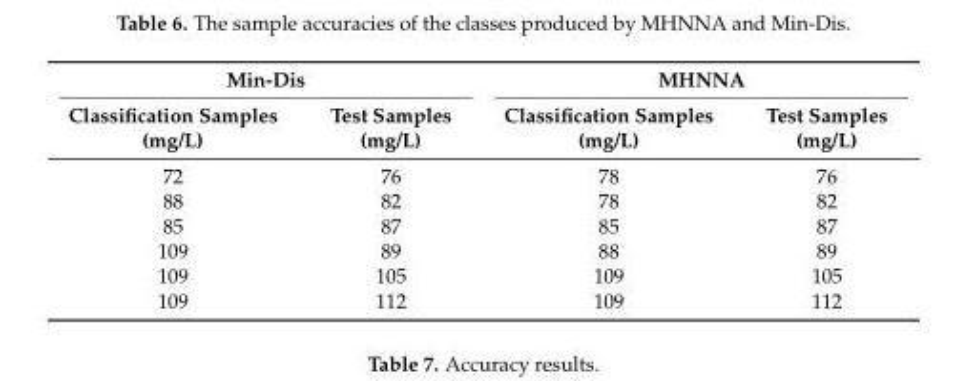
<table><thead><tr><td colspan="2">Min-Dis</td><td colspan="2">MHNNA</td></tr><tr><td>Classification Samples (mg/L)</td><td>Test Samples (mg/L)</td><td>Classification Samples (mg/L)</td><td>Test Samples (mg/L)</td></tr></thead><tbody><tr><td>72</td><td>76</td><td>78</td><td>76</td></tr><tr><td>88</td><td>82</td><td>78</td><td>82</td></tr><tr><td>85</td><td>87</td><td>85</td><td>87</td></tr><tr><td>109</td><td>89</td><td>88</td><td>89</td></tr><tr><td>109</td><td>105</td><td>109</td><td>105</td></tr><tr><td>109</td><td>112</td><td>109</td><td>112</td></tr></tbody></table>